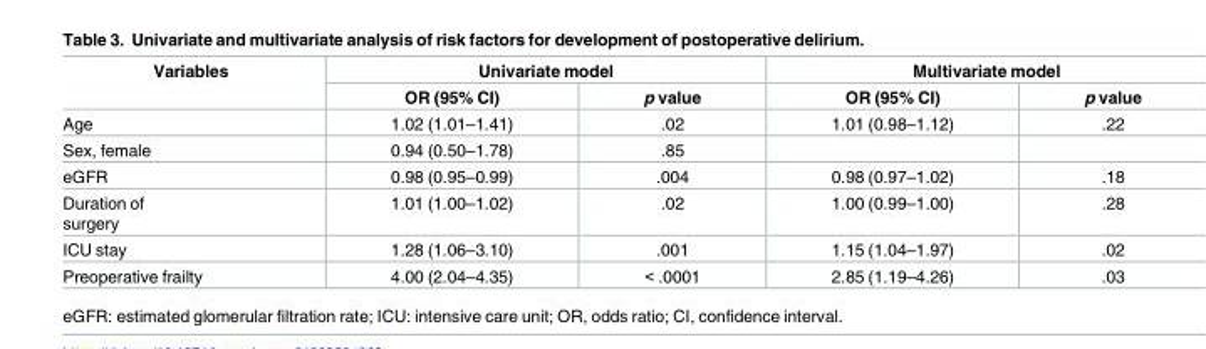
<table><thead><tr><td rowspan="2">Variables</td><td colspan="2">Univariate model</td><td colspan="2">Multivariate model</td></tr><tr><td>OR (95% CI)</td><td>p value</td><td>OR (95% CI)</td><td>p value</td></tr></thead><tbody><tr><td>Age</td><td>1.02 (1.01–1.41)</td><td>.02</td><td>1.01 (0.98–1.12)</td><td>.22</td></tr><tr><td>Sex, female</td><td>0.94 (0.50–1.78)</td><td>.85</td><td></td><td></td></tr><tr><td>eGFR</td><td>0.98 (0.95–0.99)</td><td>.004</td><td>0.98 (0.97–1.02)</td><td>.18</td></tr><tr><td>Duration of surgery</td><td>1.01 (1.00–1.02)</td><td>.02</td><td>1.00 (0.99–1.00)</td><td>.28</td></tr><tr><td>ICU stay</td><td>1.28 (1.06–3.10)</td><td>.001</td><td>1.15 (1.04–1.97)</td><td>.02</td></tr><tr><td>Preoperative frailty</td><td>4.00 (2.04–4.35)</td><td>&lt; .0001</td><td>2.85 (1.19–4.26)</td><td>.03</td></tr></tbody></table>